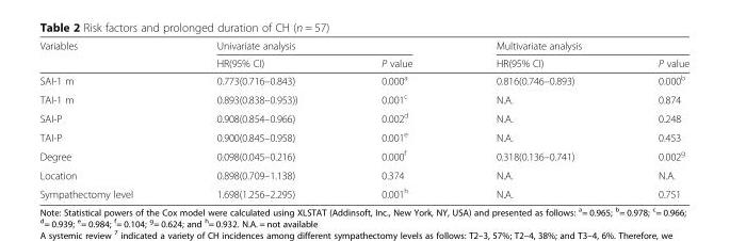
<table><thead><tr><td rowspan="2">Variables</td><td colspan="2">Univariate analysis</td><td colspan="2">Multivariate analysis</td></tr><tr><td>HR(95% CI)</td><td>P value</td><td>HR(95% CI)</td><td>P value</td></tr></thead><tbody><tr><td>SAI-1 m</td><td>0.773(0.716–0.843)</td><td>0.000<sup>a</sup></td><td>0.816(0.746–0.893)</td><td>0.000<sup>b</sup></td></tr><tr><td>TAI-1 m</td><td>0.893(0.838–0.953))</td><td>0.001<sup>c</sup></td><td>N.A.</td><td>0.874</td></tr><tr><td>SAI-P</td><td>0.908(0.854–0.966)</td><td>0.002<sup>d</sup></td><td>N.A.</td><td>0.248</td></tr><tr><td>TAI-P</td><td>0.900(0.845–0.958)</td><td>0.001<sup>e</sup></td><td>N.A.</td><td>0.453</td></tr><tr><td>Degree</td><td>0.098(0.045–0.216)</td><td>0.000<sup>f</sup></td><td>0.318(0.136–0.741)</td><td>0.002<sup>g</sup></td></tr><tr><td>Location</td><td>0.898(0.709–1.138)</td><td>0.374</td><td>N.A.</td><td>N.A.</td></tr><tr><td>Sympathectomy level</td><td>1.698(1.256–2.295)</td><td>0.001<sup>h</sup></td><td>N.A.</td><td>0.751</td></tr></tbody></table>